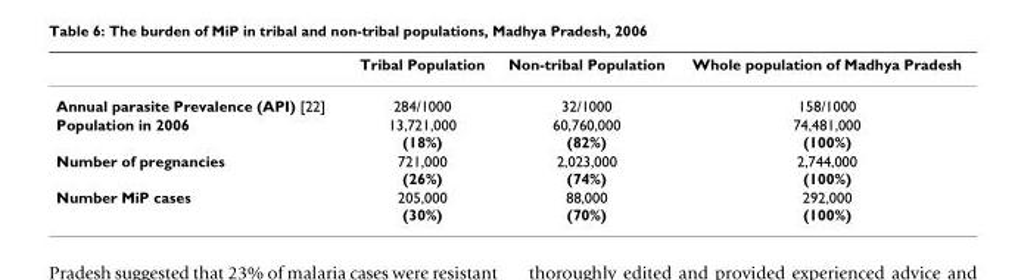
<table><thead><tr><td></td><td>Tribal Population</td><td>Non-tribal Population</td><td>Whole population of Madhya Pradesh</td></tr></thead><tbody><tr><td>Annual parasite Prevalence (API) [22]</td><td>284/1000</td><td>32/1000</td><td>158/1000</td></tr><tr><td>Population in 2006</td><td>13,721,000 (18%)</td><td>60,760,000 (82%)</td><td>74,481,000 (100%)</td></tr><tr><td>Number of pregnancies</td><td>721,000 (26%)</td><td>2,023,000 (74%)</td><td>2,744,000 (100%)</td></tr><tr><td>Number MiP cases</td><td>205,000 (30%)</td><td>88,000 (70%)</td><td>292,000 (100%)</td></tr></tbody></table>